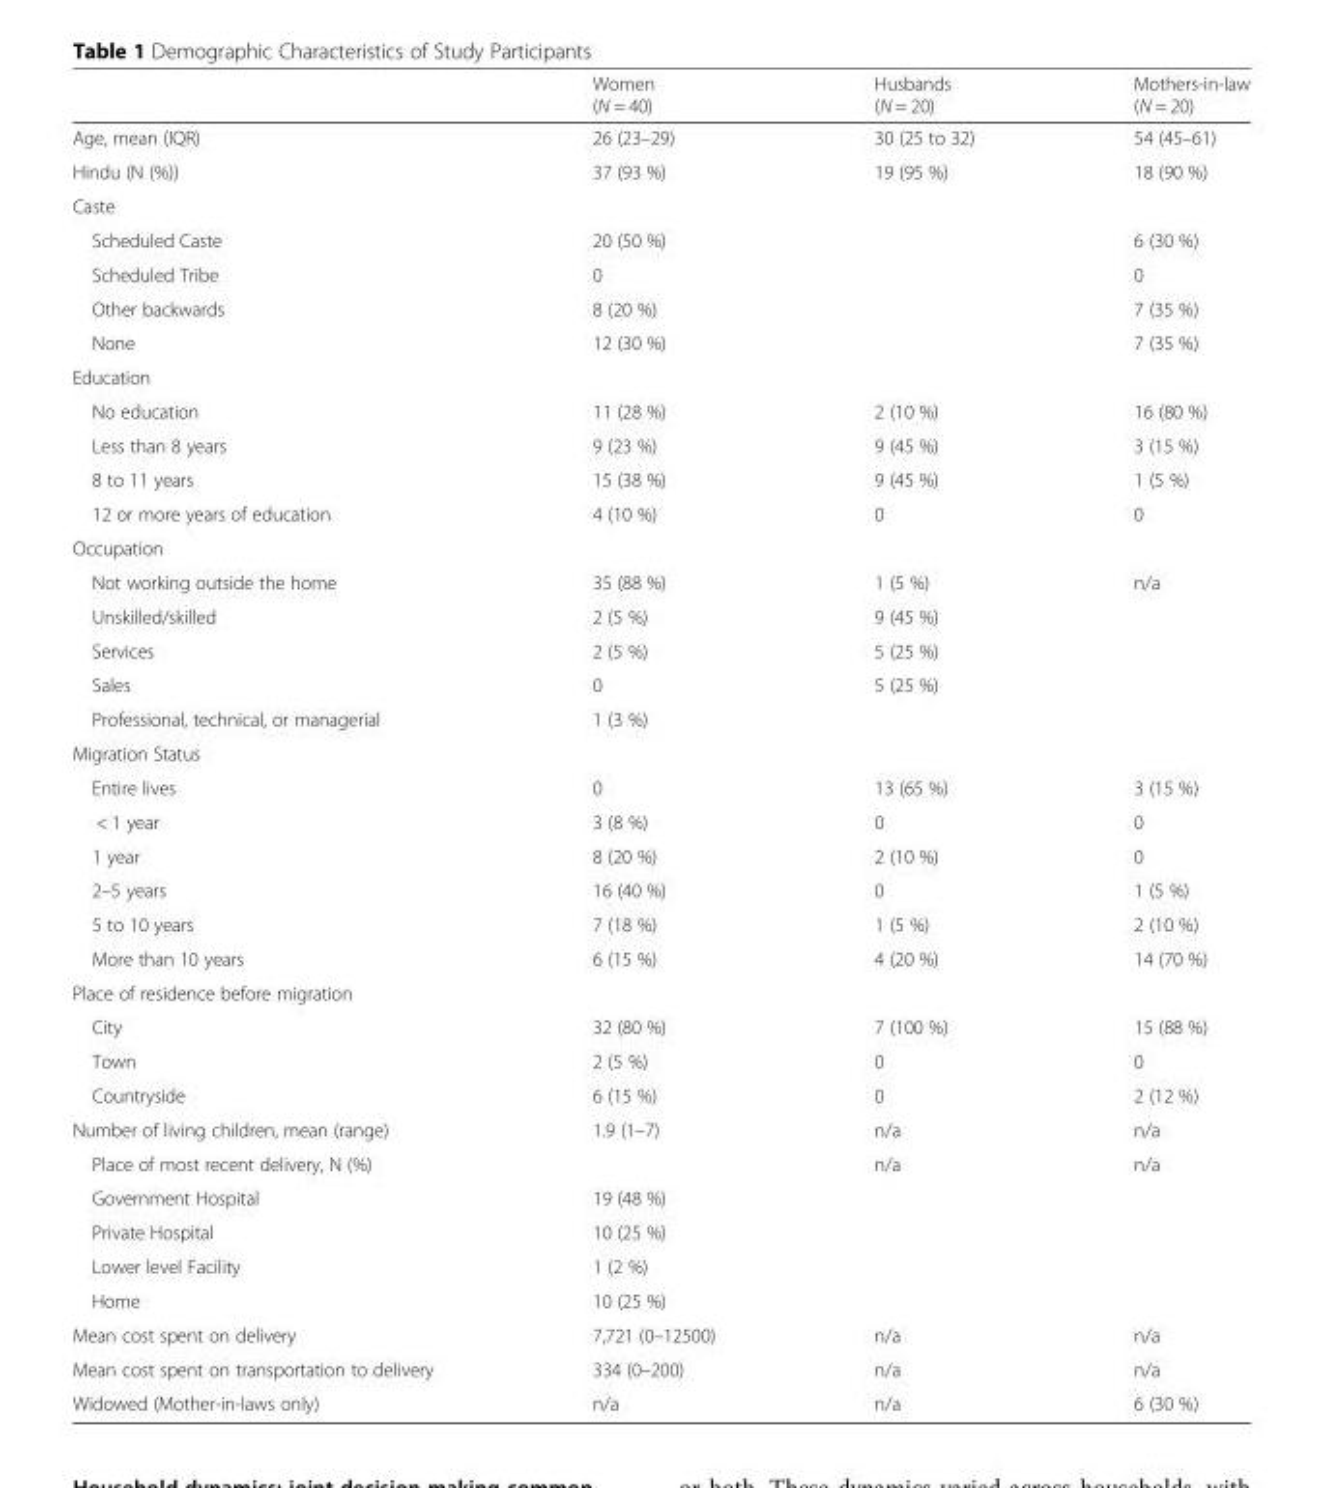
<table><thead><tr><td></td><td>Women (N = 40)</td><td>Husbands (N = 20)</td><td>Mothers-in-law (N = 20)</td></tr></thead><tbody><tr><td>Age, mean (IQR)</td><td>26 (23–29)</td><td>30 (25 to 32)</td><td>54 (45–61)</td></tr><tr><td>Hindu (N (%))</td><td>37 (93 %)</td><td>19 (95 %)</td><td>18 (90 %)</td></tr><tr><td colspan="4">Caste</td></tr><tr><td>Scheduled Caste</td><td>20 (50 %)</td><td></td><td>6 (30 %)</td></tr><tr><td>Scheduled Tribe</td><td>0</td><td></td><td>0</td></tr><tr><td>Other backwards</td><td>8 (20 %)</td><td></td><td>7 (35 %)</td></tr><tr><td>None</td><td>12 (30 %)</td><td></td><td>7 (35 %)</td></tr><tr><td colspan="4">Education</td></tr><tr><td>No education</td><td>11 (28 %)</td><td>2 (10 %)</td><td>16 (80 %)</td></tr><tr><td>Less than 8 years</td><td>9 (23 %)</td><td>9 (45 %)</td><td>3 (15 %)</td></tr><tr><td>8 to 11 years</td><td>15 (38 %)</td><td>9 (45 %)</td><td>1 (5 %)</td></tr><tr><td>12 or more years of education</td><td>4 (10 %)</td><td>0</td><td>0</td></tr><tr><td colspan="4">Occupation</td></tr><tr><td>Not working outside the home</td><td>35 (88 %)</td><td>1 (5 %)</td><td>n/a</td></tr><tr><td>Unskilled/skilled</td><td>2 (5 %)</td><td>9 (45 %)</td><td></td></tr><tr><td>Services</td><td>2 (5 %)</td><td>5 (25 %)</td><td></td></tr><tr><td>Sales</td><td>0</td><td>5 (25 %)</td><td></td></tr><tr><td>Professional, technical, or managerial</td><td>1 (3 %)</td><td></td><td></td></tr><tr><td colspan="4">Migration Status</td></tr><tr><td>Entire lives</td><td>0</td><td>13 (65 %)</td><td>3 (15 %)</td></tr><tr><td>&lt; 1 year</td><td>3 (8 %)</td><td>0</td><td>0</td></tr><tr><td>1 year</td><td>8 (20 %)</td><td>2 (10 %)</td><td>0</td></tr><tr><td>2–5 years</td><td>16 (40 %)</td><td>0</td><td>1 (5 %)</td></tr><tr><td>5 to 10 years</td><td>7 (18 %)</td><td>1 (5 %)</td><td>2 (10 %)</td></tr><tr><td>More than 10 years</td><td>6 (15 %)</td><td>4 (20 %)</td><td>14 (70 %)</td></tr><tr><td colspan="4">Place of residence before migration</td></tr><tr><td>City</td><td>32 (80 %)</td><td>7 (100 %)</td><td>15 (88 %)</td></tr><tr><td>Town</td><td>2 (5 %)</td><td>0</td><td>0</td></tr><tr><td>Countryside</td><td>6 (15 %)</td><td>0</td><td>2 (12 %)</td></tr><tr><td>Number of living children, mean (range)</td><td>1.9 (1–7)</td><td>n/a</td><td>n/a</td></tr><tr><td>Place of most recent delivery, N (%)</td><td></td><td>n/a</td><td>n/a</td></tr><tr><td>Government Hospital</td><td>19 (48 %)</td><td></td><td></td></tr><tr><td>Private Hospital</td><td>10 (25 %)</td><td></td><td></td></tr><tr><td>Lower level Facility</td><td>1 (2 %)</td><td></td><td></td></tr><tr><td>Home</td><td>10 (25 %)</td><td></td><td></td></tr><tr><td>Mean cost spent on delivery</td><td>7,721 (0–12500)</td><td>n/a</td><td>n/a</td></tr><tr><td>Mean cost spent on transportation to delivery</td><td>334 (0–200)</td><td>n/a</td><td>n/a</td></tr><tr><td>Widowed (Mother-in-laws only)</td><td>n/a</td><td>n/a</td><td>6 (30 %)</td></tr></tbody></table>